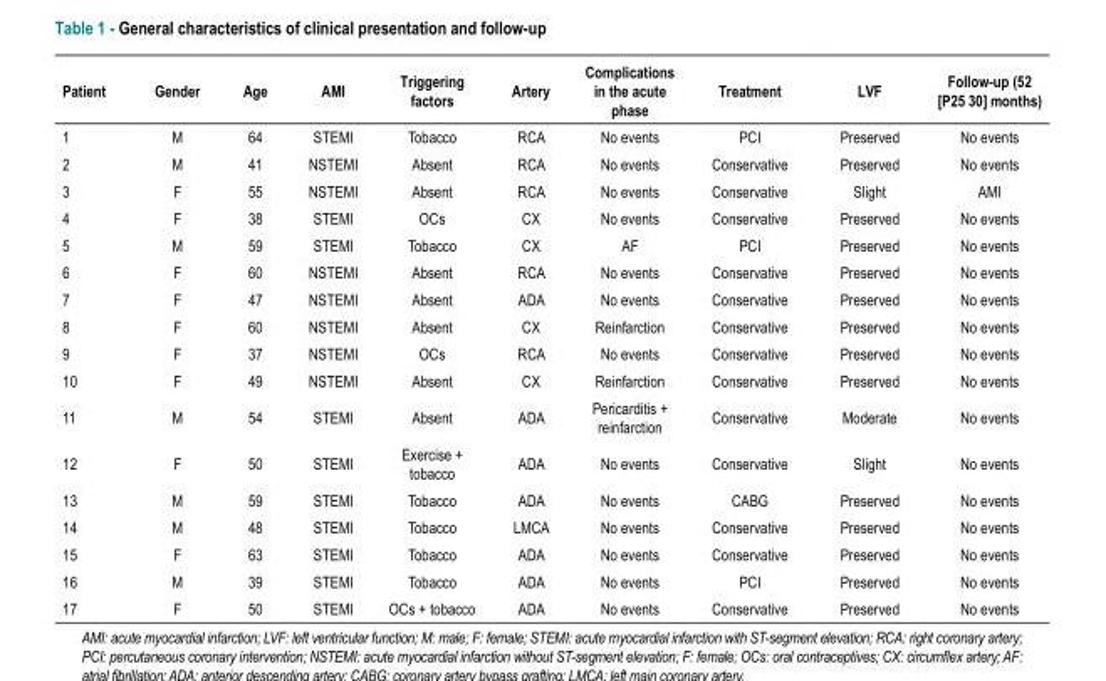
<table><thead><tr><td>Patient</td><td>Gender</td><td>Age</td><td>AMI</td><td>Triggering factors</td><td>Artery</td><td>Complications in the acute phase</td><td>Treatment</td><td>LVF</td><td>Follow-up (52 [P25 30] months)</td></tr></thead><tbody><tr><td>1</td><td>M</td><td>64</td><td>STEMI</td><td>Tobacco</td><td>RCA</td><td>No events</td><td>PCI</td><td>Preserved</td><td>No events</td></tr><tr><td>2</td><td>M</td><td>41</td><td>NSTEMI</td><td>Absent</td><td>RCA</td><td>No events</td><td>Conservative</td><td>Preserved</td><td>No events</td></tr><tr><td>3</td><td>F</td><td>55</td><td>NSTEMI</td><td>Absent</td><td>RCA</td><td>No events</td><td>Conservative</td><td>Slight</td><td>AMI</td></tr><tr><td>4</td><td>F</td><td>38</td><td>STEMI</td><td>OCs</td><td>CX</td><td>No events</td><td>Conservative</td><td>Preserved</td><td>No events</td></tr><tr><td>5</td><td>M</td><td>59</td><td>STEMI</td><td>Tobacco</td><td>CX</td><td>AF</td><td>PCI</td><td>Preserved</td><td>No events</td></tr><tr><td>6</td><td>F</td><td>60</td><td>NSTEMI</td><td>Absent</td><td>RCA</td><td>No events</td><td>Conservative</td><td>Preserved</td><td>No events</td></tr><tr><td>7</td><td>F</td><td>47</td><td>NSTEMI</td><td>Absent</td><td>ADA</td><td>No events</td><td>Conservative</td><td>Preserved</td><td>No events</td></tr><tr><td>8</td><td>F</td><td>60</td><td>NSTEMI</td><td>Absent</td><td>CX</td><td>Reinfarction</td><td>Conservative</td><td>Preserved</td><td>No events</td></tr><tr><td>9</td><td>F</td><td>37</td><td>NSTEMI</td><td>OCs</td><td>RCA</td><td>No events</td><td>Conservative</td><td>Preserved</td><td>No events</td></tr><tr><td>10</td><td>F</td><td>49</td><td>NSTEMI</td><td>Absent</td><td>CX</td><td>Reinfarction</td><td>Conservative</td><td>Preserved</td><td>No events</td></tr><tr><td>11</td><td>M</td><td>54</td><td>STEMI</td><td>Absent</td><td>ADA</td><td>Pericarditis + reinfarction</td><td>Conservative</td><td>Moderate</td><td>No events</td></tr><tr><td>12</td><td>F</td><td>50</td><td>STEMI</td><td>Exercise + tobacco</td><td>ADA</td><td>No events</td><td>Conservative</td><td>Slight</td><td>No events</td></tr><tr><td>13</td><td>M</td><td>59</td><td>STEMI</td><td>Tobacco</td><td>ADA</td><td>No events</td><td>CABG</td><td>Preserved</td><td>No events</td></tr><tr><td>14</td><td>M</td><td>48</td><td>STEMI</td><td>Tobacco</td><td>LMCA</td><td>No events</td><td>Conservative</td><td>Preserved</td><td>No events</td></tr><tr><td>15</td><td>F</td><td>63</td><td>STEMI</td><td>Tobacco</td><td>ADA</td><td>No events</td><td>Conservative</td><td>Preserved</td><td>No events</td></tr><tr><td>16</td><td>M</td><td>39</td><td>STEMI</td><td>Tobacco</td><td>ADA</td><td>No events</td><td>PCI</td><td>Preserved</td><td>No events</td></tr><tr><td>17</td><td>F</td><td>50</td><td>STEMI</td><td>OCs + tobacco</td><td>ADA</td><td>No events</td><td>Conservative</td><td>Preserved</td><td>No events</td></tr></tbody></table>